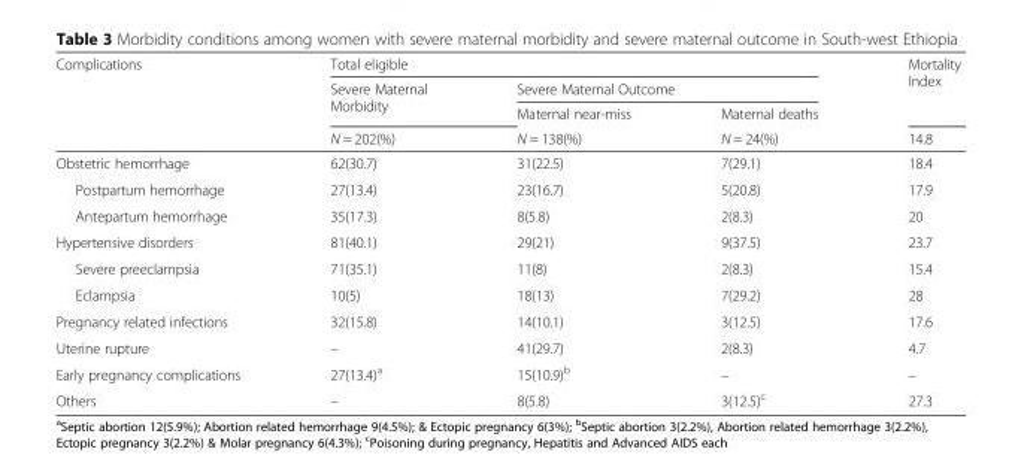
<table><thead><tr><td rowspan="4">Complications</td><td colspan="3">Total eligible</td><td rowspan="4">Mortality Index 14.8</td></tr><tr><td rowspan="3">Severe Maternal Morbidity N = 202(%)</td><td colspan="2">Severe Maternal Outcome</td></tr><tr><td rowspan="2">Maternal near-miss N = 138(%)</td><td rowspan="2">Maternal deaths N = 24(%)</td></tr><tr></tr></thead><tbody><tr><td>Obstetric hemorrhage</td><td>62(30.7)</td><td>31(22.5)</td><td>7(29.1)</td><td>18.4</td></tr><tr><td>Postpartum hemorrhage</td><td>27(13.4)</td><td>23(16.7)</td><td>5(20.8)</td><td>17.9</td></tr><tr><td>Antepartum hemorrhage</td><td>35(17.3)</td><td>8(5.8)</td><td>2(8.3)</td><td>20</td></tr><tr><td>Hypertensive disorders</td><td>81(40.1)</td><td>29(21)</td><td>9(37.5)</td><td>23.7</td></tr><tr><td>Severe preeclampsia</td><td>71(35.1)</td><td>11(8)</td><td>2(8.3)</td><td>15.4</td></tr><tr><td>Eclampsia</td><td>10(5)</td><td>18(13)</td><td>7(29.2)</td><td>28</td></tr><tr><td>Pregnancy related infections</td><td>32(15.8)</td><td>14(10.1)</td><td>3(12.5)</td><td>17.6</td></tr><tr><td>Uterine rupture</td><td>–</td><td>41(29.7)</td><td>2(8.3)</td><td>4.7</td></tr><tr><td>Early pregnancy complications</td><td>27(13.4)<sup>a</sup></td><td>15(10.9)<sup>b</sup></td><td>–</td><td>–</td></tr><tr><td>Others</td><td>–</td><td>8(5.8)</td><td>3(12.5)<sup>c</sup></td><td>27.3</td></tr></tbody></table>